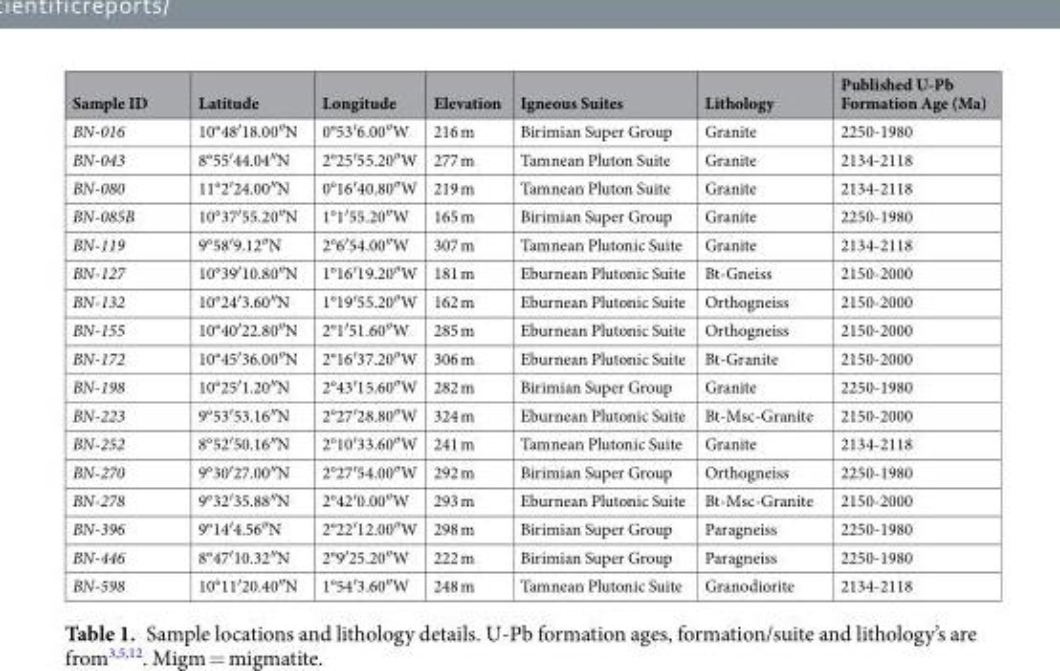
<table><thead><tr><td>Sample ID</td><td>Latitude</td><td>Longitude</td><td>Elevation</td><td>Igneous Suites</td><td>Lithology</td><td>Published U-Pb Formation Age (Ma)</td></tr></thead><tbody><tr><td>BN-016</td><td>10°48′18.00″N</td><td>0°53′6.00″W</td><td>216 m</td><td>Birimian Super Group</td><td>Granite</td><td>2250-1980</td></tr><tr><td>BN-043</td><td>8°55′44.04″N</td><td>2°25′55.20″W</td><td>277 m</td><td>Tamnean Pluton Suite</td><td>Granite</td><td>2134-2118</td></tr><tr><td>BN-080</td><td>11°2′24.00″N</td><td>0°16′40.80″W</td><td>219 m</td><td>Tamnean Pluton Suite</td><td>Granite</td><td>2134-2118</td></tr><tr><td>BN-085B</td><td>10°37′55.20″N</td><td>1°1′55.20″W</td><td>165 m</td><td>Birimian Super Group</td><td>Granite</td><td>2250-1980</td></tr><tr><td>BN-119</td><td>9°58′9.12″N</td><td>2°6′54.00″W</td><td>307 m</td><td>Tamnean Plutonic Suite</td><td>Granite</td><td>2134-2118</td></tr><tr><td>BN-127</td><td>10°39′10.80″N</td><td>1°16′19.20″W</td><td>181 m</td><td>Eburnean Plutonic Suite</td><td>Bt-Gneiss</td><td>2150-2000</td></tr><tr><td>BN-132</td><td>10°24′3.60″N</td><td>1°19′55.20″W</td><td>162 m</td><td>Eburnean Plutonic Suite</td><td>Orthogneiss</td><td>2150-2000</td></tr><tr><td>BN-155</td><td>10°40′22.80″N</td><td>2°1′51.60″W</td><td>285 m</td><td>Eburnean Plutonic Suite</td><td>Orthogneiss</td><td>2150-2000</td></tr><tr><td>BN-172</td><td>10°45′36.00″N</td><td>2°16′37.20″W</td><td>306 m</td><td>Eburnean Plutonic Suite</td><td>Bt-Granite</td><td>2150-2000</td></tr><tr><td>BN-198</td><td>10°25′1.20″N</td><td>2°43′15.60″W</td><td>282 m</td><td>Birimian Super Group</td><td>Granite</td><td>2250-1980</td></tr><tr><td>BN-223</td><td>9°53′53.16″N</td><td>2°27′28.80″W</td><td>324 m</td><td>Eburnean Plutonic Suite</td><td>Bt-Msc-Granite</td><td>2150-2000</td></tr><tr><td>BN-252</td><td>8°52′50.16″N</td><td>2°10′33.60″W</td><td>241 m</td><td>Tamnean Plutonic Suite</td><td>Granite</td><td>2134-2118</td></tr><tr><td>BN-270</td><td>9°30′27.00″N</td><td>2°27′54.00″W</td><td>292 m</td><td>Birimian Super Group</td><td>Orthogneiss</td><td>2250-1980</td></tr><tr><td>BN-278</td><td>9°32′35.88″N</td><td>2°42′0.00″W</td><td>293 m</td><td>Eburnean Plutonic Suite</td><td>Bt-Msc-Granite</td><td>2150-2000</td></tr><tr><td>BN-396</td><td>9°14′4.56″N</td><td>2°22′12.00″W</td><td>298 m</td><td>Birimian Super Group</td><td>Paragneiss</td><td>2250-1980</td></tr><tr><td>BN-446</td><td>8°47′10.32″N</td><td>2°9′25.20″W</td><td>222 m</td><td>Birimian Super Group</td><td>Paragneiss</td><td>2250-1980</td></tr><tr><td>BN-598</td><td>10°11′20.40″N</td><td>1°54′3.60″W</td><td>248 m</td><td>Tamnean Plutonic Suite</td><td>Granodiorite</td><td>2134-2118</td></tr></tbody></table>